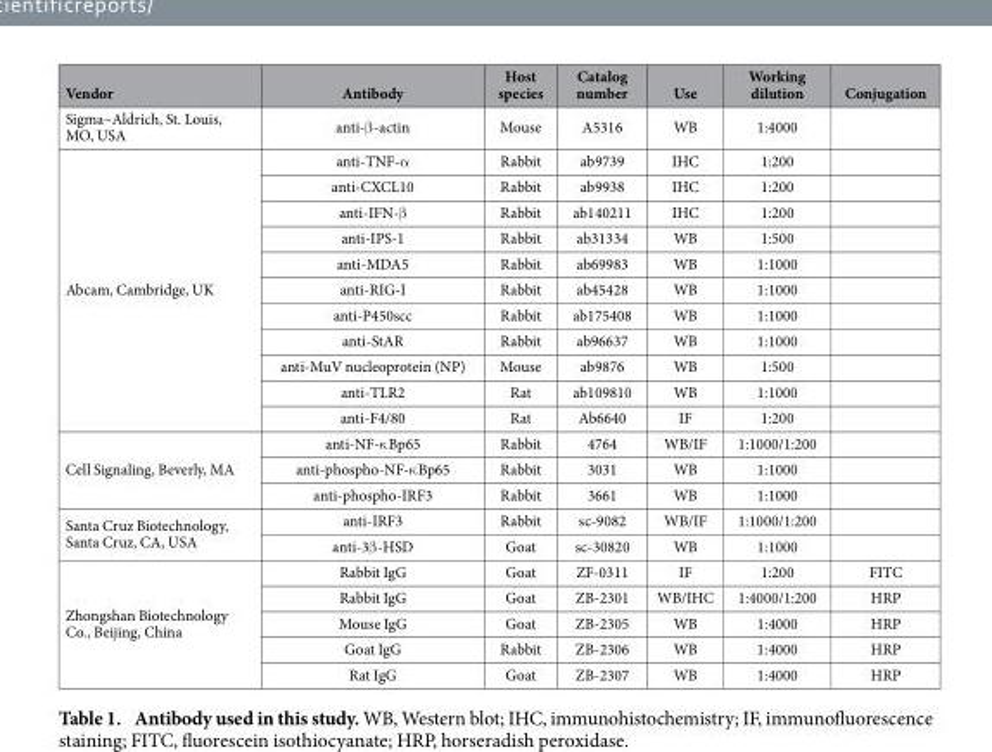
<table><thead><tr><td>Vendor</td><td>Antibody</td><td>Host species</td><td>Catalog number</td><td>Use</td><td>Working dilution</td><td>Conjugation</td></tr></thead><tbody><tr><td>Sigma–Aldrich, St. Louis, MO, USA</td><td>anti-β -actin</td><td>Mouse</td><td>A5316</td><td>WB</td><td>1:4000</td><td></td></tr><tr><td rowspan="11">Abcam, Cambridge, UK</td><td>anti-TNF-α</td><td>Rabbit</td><td>ab9739</td><td>IHC</td><td>1:200</td><td></td></tr><tr><td>anti-CXCL10</td><td>Rabbit</td><td>ab9938</td><td>IHC</td><td>1:200</td><td></td></tr><tr><td>anti-IFN-β</td><td>Rabbit</td><td>ab140211</td><td>IHC</td><td>1:200</td><td></td></tr><tr><td>anti-IPS-1</td><td>Rabbit</td><td>ab31334</td><td>WB</td><td>1:500</td><td></td></tr><tr><td>anti-MDA5</td><td>Rabbit</td><td>ab69983</td><td>WB</td><td>1:1000</td><td></td></tr><tr><td>anti-RIG-I</td><td>Rabbit</td><td>ab45428</td><td>WB</td><td>1:1000</td><td></td></tr><tr><td>anti-P450scc</td><td>Rabbit</td><td>ab175408</td><td>WB</td><td>1:1000</td><td></td></tr><tr><td>anti-StAR</td><td>Rabbit</td><td>ab96637</td><td>WB</td><td>1:1000</td><td></td></tr><tr><td>anti-MuV nucleoprotein (NP)</td><td>Mouse</td><td>ab9876</td><td>WB</td><td>1:500</td><td></td></tr><tr><td>anti-TLR2</td><td>Rat</td><td>ab109810</td><td>WB</td><td>1:1000</td><td></td></tr><tr><td>anti-F4/80</td><td>Rat</td><td>Ab6640</td><td>IF</td><td>1:200</td><td></td></tr><tr><td rowspan="3">Cell Signaling, Beverly, MA</td><td>anti-NF-κ Bp65</td><td>Rabbit</td><td>4764</td><td>WB/IF</td><td>1:1000/1:200</td><td></td></tr><tr><td>anti-phospho-NF-κ Bp65</td><td>Rabbit</td><td>3031</td><td>WB</td><td>1:1000</td><td></td></tr><tr><td>anti-phospho-IRF3</td><td>Rabbit</td><td>3661</td><td>WB</td><td>1:1000</td><td></td></tr><tr><td rowspan="2">Santa Cruz Biotechnology, Santa Cruz, CA, USA</td><td>anti-IRF3</td><td>Rabbit</td><td>sc-9082</td><td>WB/IF</td><td>1:1000/1:200</td><td></td></tr><tr><td>anti-3β -HSD</td><td>Goat</td><td>sc-30820</td><td>WB</td><td>1:1000</td><td></td></tr><tr><td rowspan="5">Zhongshan Biotechnology Co., Beijing, China</td><td>Rabbit IgG</td><td>Goat</td><td>ZF-0311</td><td>IF</td><td>1:200</td><td>FITC</td></tr><tr><td>Rabbit IgG</td><td>Goat</td><td>ZB-2301</td><td>WB/IHC</td><td>1:4000/1:200</td><td>HRP</td></tr><tr><td>Mouse IgG</td><td>Goat</td><td>ZB-2305</td><td>WB</td><td>1:4000</td><td>HRP</td></tr><tr><td>Goat IgG</td><td>Rabbit</td><td>ZB-2306</td><td>WB</td><td>1:4000</td><td>HRP</td></tr><tr><td>Rat IgG</td><td>Goat</td><td>ZB-2307</td><td>WB</td><td>1:4000</td><td>HRP</td></tr></tbody></table>